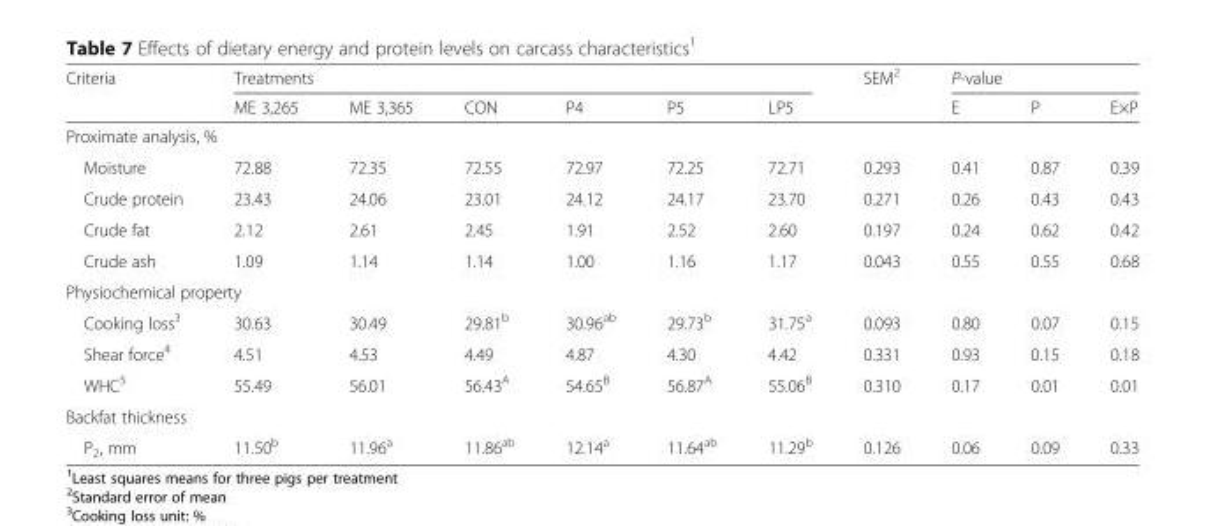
<table><thead><tr><td rowspan="2">Criteria</td><td colspan="6">Treatments</td><td rowspan="2">SEM<sup>2</sup></td><td colspan="3">P-value</td></tr><tr><td>ME 3,265</td><td>ME 3,365</td><td>CON</td><td>P4</td><td>P5</td><td>LP5</td><td>E</td><td>P</td><td>E×P</td></tr></thead><tbody><tr><td colspan="11">Proximate analysis, %</td></tr><tr><td>Moisture</td><td>72.88</td><td>72.35</td><td>72.55</td><td>72.97</td><td>72.25</td><td>72.71</td><td>0.293</td><td>0.41</td><td>0.87</td><td>0.39</td></tr><tr><td>Crude protein</td><td>23.43</td><td>24.06</td><td>23.01</td><td>24.12</td><td>24.17</td><td>23.70</td><td>0.271</td><td>0.26</td><td>0.43</td><td>0.43</td></tr><tr><td>Crude fat</td><td>2.12</td><td>2.61</td><td>2.45</td><td>1.91</td><td>2.52</td><td>2.60</td><td>0.197</td><td>0.24</td><td>0.62</td><td>0.42</td></tr><tr><td>Crude ash</td><td>1.09</td><td>1.14</td><td>1.14</td><td>1.00</td><td>1.16</td><td>1.17</td><td>0.043</td><td>0.55</td><td>0.55</td><td>0.68</td></tr><tr><td colspan="11">Physiochemical property</td></tr><tr><td>Cooking loss<sup>3</sup></td><td>30.63</td><td>30.49</td><td>29.81<sup>b</sup></td><td>30.96<sup>ab</sup></td><td>29.73<sup>b</sup></td><td>31.75<sup>a</sup></td><td>0.093</td><td>0.80</td><td>0.07</td><td>0.15</td></tr><tr><td>Shear force<sup>4</sup></td><td>4.51</td><td>4.53</td><td>4.49</td><td>4.87</td><td>4.30</td><td>4.42</td><td>0.331</td><td>0.93</td><td>0.15</td><td>0.18</td></tr><tr><td>WHC<sup>5</sup></td><td>55.49</td><td>56.01</td><td>56.43<sup>A</sup></td><td>54.65<sup>B</sup></td><td>56.87<sup>A</sup></td><td>55.06<sup>B</sup></td><td>0.310</td><td>0.17</td><td>0.01</td><td>0.01</td></tr><tr><td colspan="11">Backfat thickness</td></tr><tr><td>P<sub>2</sub>, mm</td><td>11.50<sup>b</sup></td><td>11.96<sup>a</sup></td><td>11.86<sup>ab</sup></td><td>12.14<sup>a</sup></td><td>11.64<sup>ab</sup></td><td>11.29<sup>b</sup></td><td>0.126</td><td>0.06</td><td>0.09</td><td>0.33</td></tr></tbody></table>